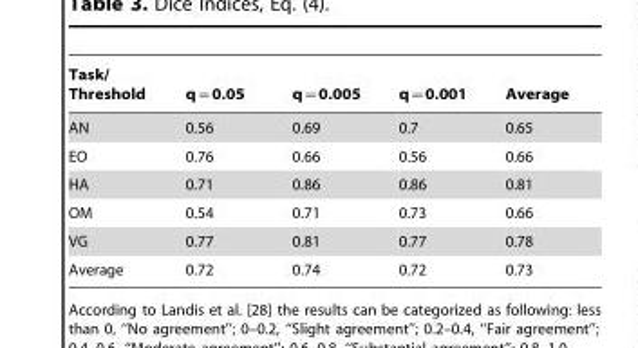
<table><thead><tr><td>Task/ Threshold</td><td>q~0.05</td><td>q~0.005</td><td>q~0.001</td><td>Average</td></tr></thead><tbody><tr><td>AN</td><td>0.56</td><td>0.69</td><td>0.7</td><td>0.65</td></tr><tr><td>EO</td><td>0.76</td><td>0.66</td><td>0.56</td><td>0.66</td></tr><tr><td>HA</td><td>0.71</td><td>0.86</td><td>0.86</td><td>0.81</td></tr><tr><td>OM</td><td>0.54</td><td>0.71</td><td>0.73</td><td>0.66</td></tr><tr><td>VG</td><td>0.77</td><td>0.81</td><td>0.77</td><td>0.78</td></tr><tr><td>Average</td><td>0.72</td><td>0.74</td><td>0.72</td><td>0.73</td></tr></tbody></table>